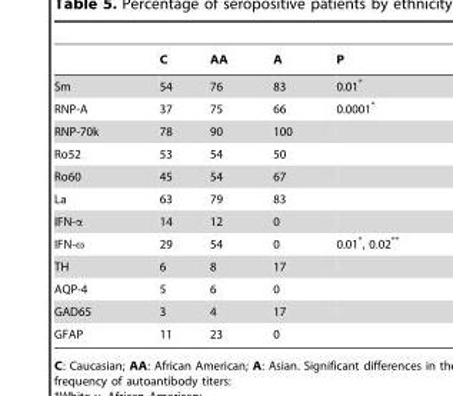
<table><thead><tr><td></td><td>C</td><td>AA</td><td>A</td><td>P</td></tr></thead><tbody><tr><td>Sm</td><td>54</td><td>76</td><td>83</td><td>0.01*</td></tr><tr><td>RNP-A</td><td>37</td><td>75</td><td>66</td><td>0.0001*</td></tr><tr><td>RNP-70k</td><td>78</td><td>90</td><td>100</td><td></td></tr><tr><td>Ro52</td><td>53</td><td>54</td><td>50</td><td></td></tr><tr><td>Ro60</td><td>45</td><td>54</td><td>67</td><td></td></tr><tr><td>La</td><td>63</td><td>79</td><td>83</td><td></td></tr><tr><td>IFN-α</td><td>14</td><td>12</td><td>0</td><td></td></tr><tr><td>IFN-ω</td><td>29</td><td>54</td><td>0</td><td>0.01*, 0.02**</td></tr><tr><td>TH</td><td>6</td><td>8</td><td>17</td><td></td></tr><tr><td>AQP-4</td><td>5</td><td>6</td><td>0</td><td></td></tr><tr><td>GAD65</td><td>3</td><td>4</td><td>17</td><td></td></tr><tr><td>GFAP</td><td>11</td><td>23</td><td>0</td><td></td></tr></tbody></table>